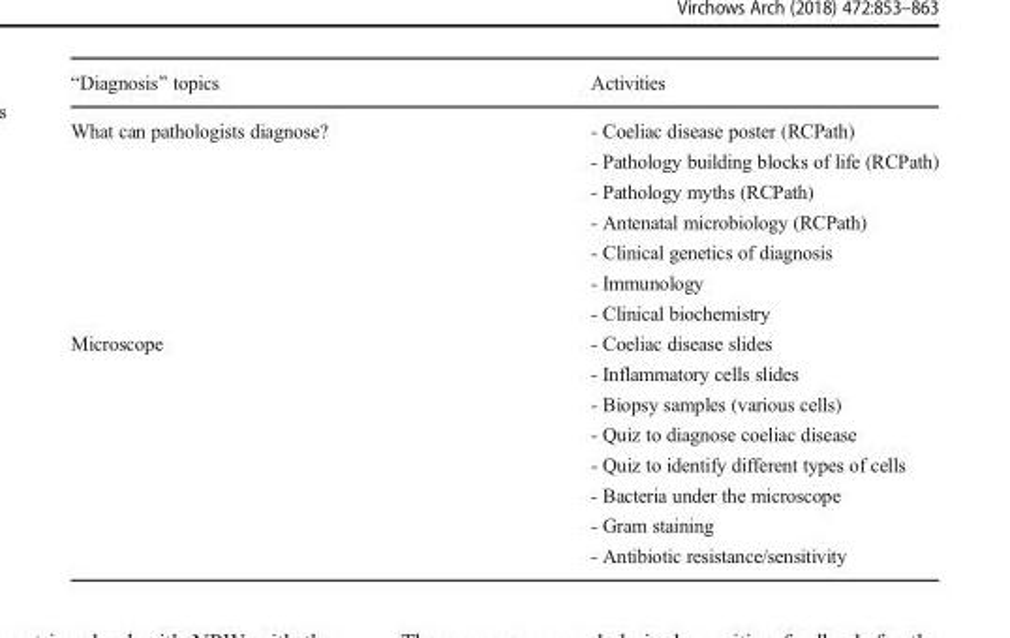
<table><thead><tr><td>“Diagnosis” topics</td><td>Activities</td></tr></thead><tbody><tr><td>What can pathologists diagnose?</td><td>- Coeliac disease poster (RCPath) - Pathology building blocks of life (RCPath) - Pathology myths (RCPath) - Antenatal microbiology (RCPath) - Clinical genetics of diagnosis - Immunology - Clinical biochemistry</td></tr><tr><td>Microscope</td><td>- Coeliac disease slides - Inflammatory cells slides - Biopsy samples (various cells) - Quiz to diagnose coeliac disease - Quiz to identify different types of cells - Bacteria under the microscope - Gram staining - Antibiotic resistance/sensitivity</td></tr></tbody></table>